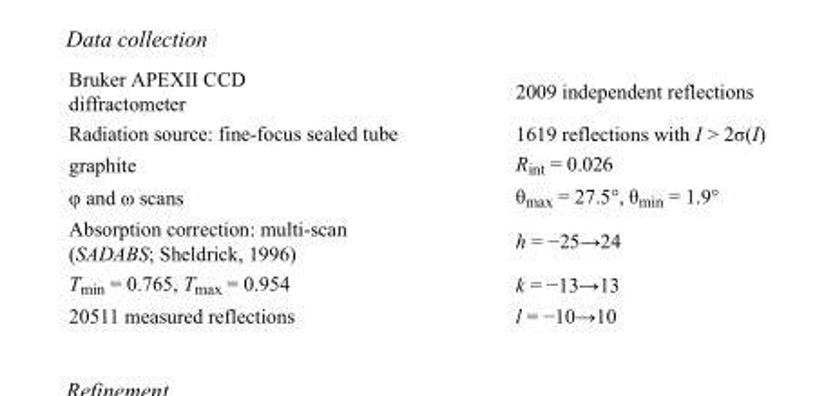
<table><tbody><tr><td>Bruker APEXII CCD diffractometer</td><td>2009 independent reflections</td></tr><tr><td>Radiation source: fine-focus sealed tube</td><td>1619 reflections with I &gt; 2σ(I)</td></tr><tr><td>graphite</td><td>R<sub>int</sub> = 0.026</td></tr><tr><td>φ and ω scans</td><td>θ<sub>max</sub> = 27.5°, θ<sub>min</sub> = 1.9°</td></tr><tr><td>Absorption correction: multi-scan (SADABS; Sheldrick, 1996)</td><td>h = −25→24</td></tr><tr><td>T<sub>min</sub> = 0.765, T<sub>max</sub> = 0.954</td><td>k = −13→13</td></tr><tr><td>20511 measured reflections</td><td>l = −10→10</td></tr></tbody></table>